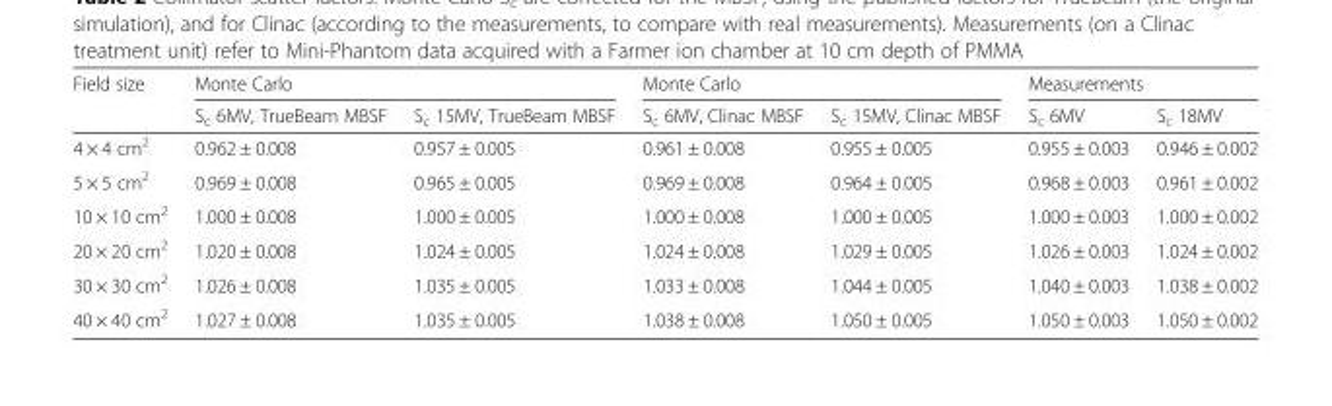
<table><thead><tr><td rowspan="2">Field size</td><td colspan="2">Monte Carlo</td><td colspan="2">Monte Carlo</td><td colspan="2">Measurements</td></tr><tr><td>S<sub>c</sub> 6MV, TrueBeam MBSF</td><td>S<sub>c</sub> 15MV, TrueBeam MBSF</td><td>S<sub>c</sub> 6MV, Clinac MBSF</td><td>S<sub>c</sub> 15MV, Clinac MBSF</td><td>S<sub>c</sub> 6MV</td><td>S<sub>c</sub> 18MV</td></tr></thead><tbody><tr><td>4 × 4 cm<sup>2</sup></td><td>0.962 ± 0.008</td><td>0.957 ± 0.005</td><td>0.961 ± 0.008</td><td>0.955 ± 0.005</td><td>0.955 ± 0.003</td><td>0.946 ± 0.002</td></tr><tr><td>5 × 5 cm<sup>2</sup></td><td>0.969 ± 0.008</td><td>0.965 ± 0.005</td><td>0.969 ± 0.008</td><td>0.964 ± 0.005</td><td>0.968 ± 0.003</td><td>0.961 ± 0.002</td></tr><tr><td>10 × 10 cm<sup>2</sup></td><td>1.000 ± 0.008</td><td>1.000 ± 0.005</td><td>1.000 ± 0.008</td><td>1.000 ± 0.005</td><td>1.000 ± 0.003</td><td>1.000 ± 0.002</td></tr><tr><td>20 × 20 cm<sup>2</sup></td><td>1.020 ± 0.008</td><td>1.024 ± 0.005</td><td>1.024 ± 0.008</td><td>1.029 ± 0.005</td><td>1.026 ± 0.003</td><td>1.024 ± 0.002</td></tr><tr><td>30 × 30 cm<sup>2</sup></td><td>1.026 ± 0.008</td><td>1.035 ± 0.005</td><td>1.033 ± 0.008</td><td>1.044 ± 0.005</td><td>1.040 ± 0.003</td><td>1.038 ± 0.002</td></tr><tr><td>40 × 40 cm<sup>2</sup></td><td>1.027 ± 0.008</td><td>1.035 ± 0.005</td><td>1.038 ± 0.008</td><td>1.050 ± 0.005</td><td>1.050 ± 0.003</td><td>1.050 ± 0.002</td></tr></tbody></table>